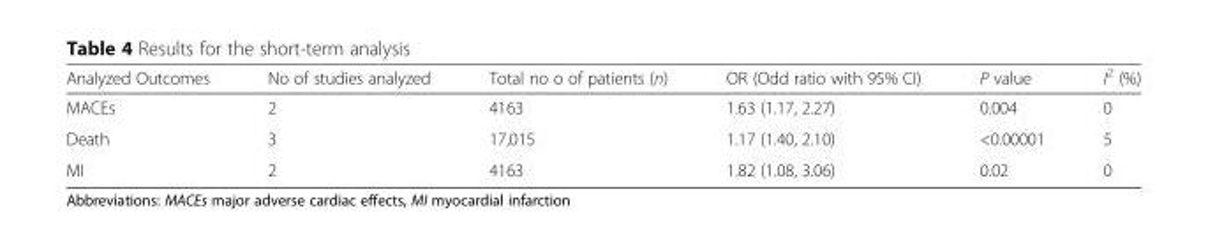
<table><thead><tr><td>Analyzed Outcomes</td><td>No of studies analyzed</td><td>Total no o of patients (n)</td><td>OR (Odd ratio with 95% CI)</td><td>P value</td><td>I<sup>2</sup> (%)</td></tr></thead><tbody><tr><td>MACEs</td><td>2</td><td>4163</td><td>1.63 (1.17, 2.27)</td><td>0.004</td><td>0</td></tr><tr><td>Death</td><td>3</td><td>17,015</td><td>1.17 (1.40, 2.10)</td><td>&lt;0.00001</td><td>5</td></tr><tr><td>MI</td><td>2</td><td>4163</td><td>1.82 (1.08, 3.06)</td><td>0.02</td><td>0</td></tr></tbody></table>